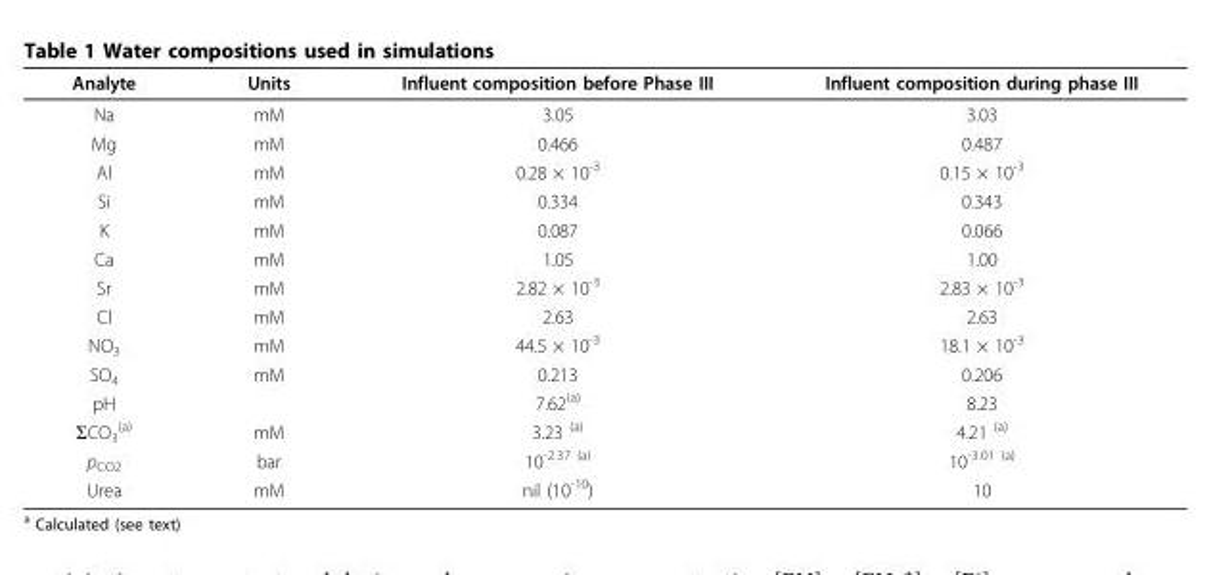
<table><thead><tr><td>Analyte</td><td>Units</td><td>Influent composition before Phase III</td><td>Influent composition during phase III</td></tr></thead><tbody><tr><td>Na</td><td>mM</td><td>3.05</td><td>3.03</td></tr><tr><td>Mg</td><td>mM</td><td>0.466</td><td>0.487</td></tr><tr><td>Al</td><td>mM</td><td>0.28 × 10<sup>-3</sup></td><td>0.15 × 10<sup>-3</sup></td></tr><tr><td>Si</td><td>mM</td><td>0.334</td><td>0.343</td></tr><tr><td>K</td><td>mM</td><td>0.087</td><td>0.066</td></tr><tr><td>Ca</td><td>mM</td><td>1.05</td><td>1.00</td></tr><tr><td>Sr</td><td>mM</td><td>2.82 × 10<sup>-3</sup></td><td>2.83 × 10<sup>-3</sup></td></tr><tr><td>Cl</td><td>mM</td><td>2.63</td><td>2.63</td></tr><tr><td>NO<sub>3</sub></td><td>mM</td><td>44.5 × 10<sup>-3</sup></td><td>18.1 × 10<sup>-3</sup></td></tr><tr><td>SO<sub>4</sub></td><td>mM</td><td>0.213</td><td>0.206</td></tr><tr><td>pH</td><td></td><td>7.62<sup>(a)</sup></td><td>8.23</td></tr><tr><td>ΣCO<sub>3</sub> <sup>(a)</sup></td><td>mM</td><td>3.23 <sup>(a)</sup></td><td>4.21 <sup>(a)</sup></td></tr><tr><td>p<sub>CO2</sub></td><td>bar</td><td>10<sup>-2.37 (a)</sup></td><td>10<sup>-3.01 (a)</sup></td></tr><tr><td>Urea</td><td>mM</td><td>nil (10<sup>-10</sup>)</td><td>10</td></tr></tbody></table>